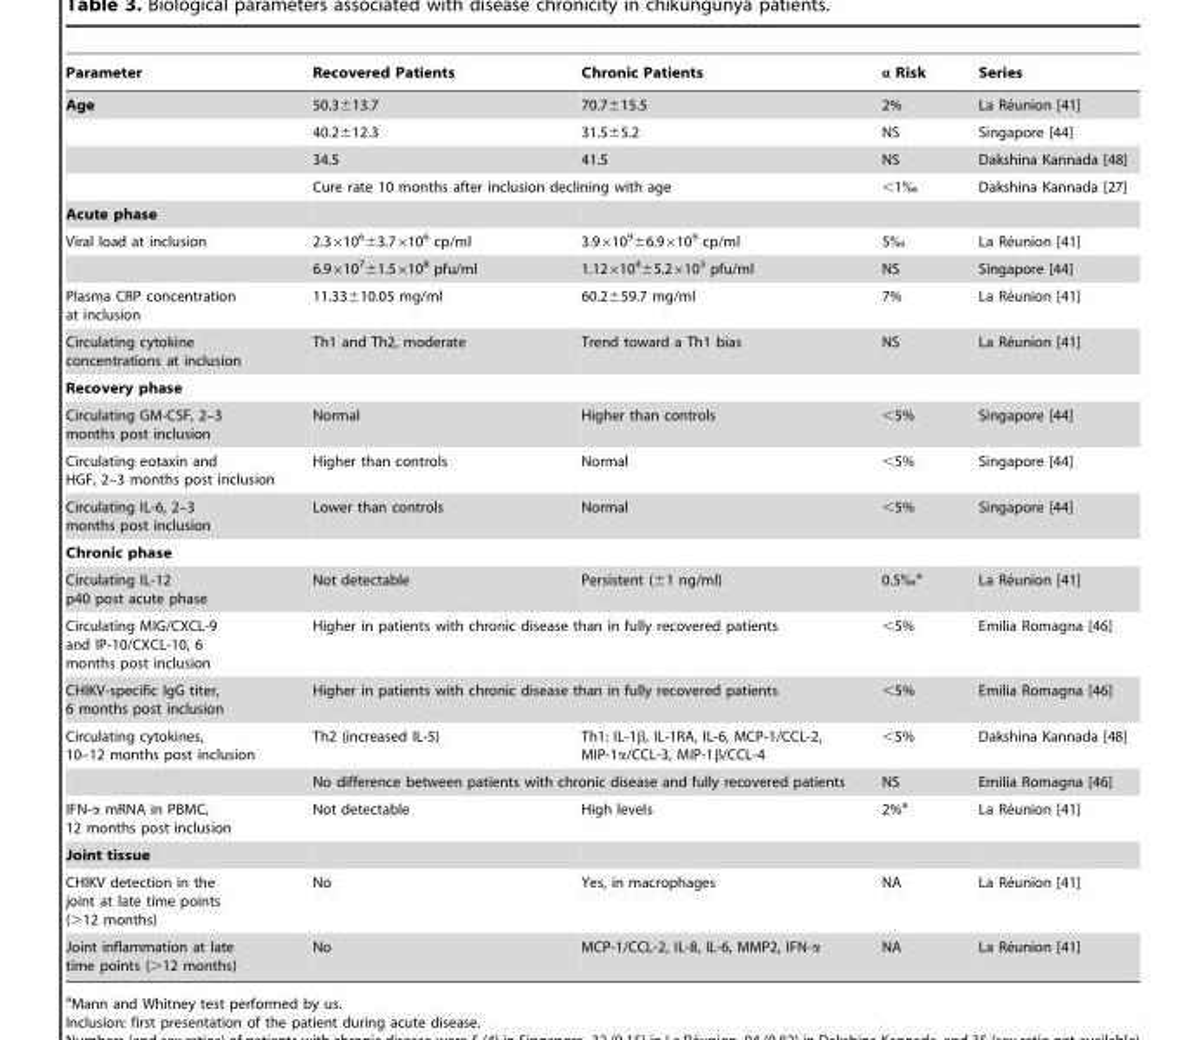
<table><thead><tr><td>Parameter</td><td>Recovered Patients</td><td>Chronic Patients</td><td>α Risk</td><td>Series</td></tr></thead><tbody><tr><td rowspan="4">Age</td><td>50.3±13.7</td><td>70.7±15.5</td><td>2%</td><td>La Re´union [41]</td></tr><tr><td>40.2±12.3</td><td>31.5±5.2</td><td>NS</td><td>Singapore [44]</td></tr><tr><td>34.5</td><td>41.5</td><td>NS</td><td>Dakshina Kannada [48]</td></tr><tr><td colspan="2">Cure rate 10 months after inclusion declining with age</td><td>&lt;1‰</td><td>Dakshina Kannada [27]</td></tr><tr><td colspan="5">Acute phase</td></tr><tr><td rowspan="2">Viral load at inclusion</td><td>2.3×10<sup>6</sup>±3.7×10<sup>6</sup> cp/ml</td><td>3.9×10<sup>9</sup>±6.9×10<sup>9</sup> cp/ml</td><td>5‰</td><td>La Re´union [41]</td></tr><tr><td>6.9×10<sup>7</sup>±1.5×10<sup>8</sup> pfu/ml</td><td>1.12×10<sup>4</sup>±5.2×10<sup>3</sup> pfu/ml</td><td>NS</td><td>Singapore [44]</td></tr><tr><td>Plasma CRP concentration at inclusion</td><td>11.33±10.05 mg/ml</td><td>60.2±59.7 mg/ml</td><td>7%</td><td>La Re´union [41]</td></tr><tr><td>Circulating cytokine concentrations at inclusion</td><td>Th1 and Th2, moderate</td><td>Trend toward a Th1 bias</td><td>NS</td><td>La Re´union [41]</td></tr><tr><td colspan="5">Recovery phase</td></tr><tr><td>Circulating GM-CSF, 2–3 months post inclusion</td><td>Normal</td><td>Higher than controls</td><td>&lt;5%</td><td>Singapore [44]</td></tr><tr><td>Circulating eotaxin and HGF, 2–3 months post inclusion</td><td>Higher than controls</td><td>Normal</td><td>&lt;5%</td><td>Singapore [44]</td></tr><tr><td>Circulating IL-6, 2–3 months post inclusion</td><td>Lower than controls</td><td>Normal</td><td>&lt;5%</td><td>Singapore [44]</td></tr><tr><td colspan="5">Chronic phase</td></tr><tr><td>Circulating IL-12 p40 post acute phase</td><td>Not detectable</td><td>Persistent (±1 ng/ml)</td><td>0.5‰<sup>a</sup></td><td>La Re´union [41]</td></tr><tr><td>Circulating MIG/CXCL-9 and IP-10/CXCL-10, 6 months post inclusion</td><td colspan="2">Higher in patients with chronic disease than in fully recovered patients</td><td>&lt;5%</td><td>Emilia Romagna [46]</td></tr><tr><td>CHIKV-specific IgG titer, 6 months post inclusion</td><td colspan="2">Higher in patients with chronic disease than in fully recovered patients</td><td>&lt;5%</td><td>Emilia Romagna [46]</td></tr><tr><td rowspan="2">Circulating cytokines, 10–12 months post inclusion</td><td>Th2 (increased IL-5)</td><td>Th1: IL-1β, IL-1RA, IL-6, MCP-1/CCL-2, MIP-1α/CCL-3, MIP-1β/CCL-4</td><td>&lt;5%</td><td>Dakshina Kannada [48]</td></tr><tr><td colspan="2">No difference between patients with chronic disease and fully recovered patients</td><td>NS</td><td>Emilia Romagna [46]</td></tr><tr><td>IFN-α mRNA in PBMC, 12 months post inclusion</td><td>Not detectable</td><td>High levels</td><td>2%<sup>a</sup></td><td>La Re´union [41]</td></tr><tr><td colspan="5">Joint tissue</td></tr><tr><td>CHIKV detection in the joint at late time points (&gt;12 months)</td><td>No</td><td>Yes, in macrophages</td><td>NA</td><td>La Re´union [41]</td></tr><tr><td>Joint inflammation at late time points (&gt;12 months)</td><td>No</td><td>MCP-1/CCL-2, IL-8, IL-6, MMP2, IFN-α</td><td>NA</td><td>La Re´union [41]</td></tr></tbody></table>